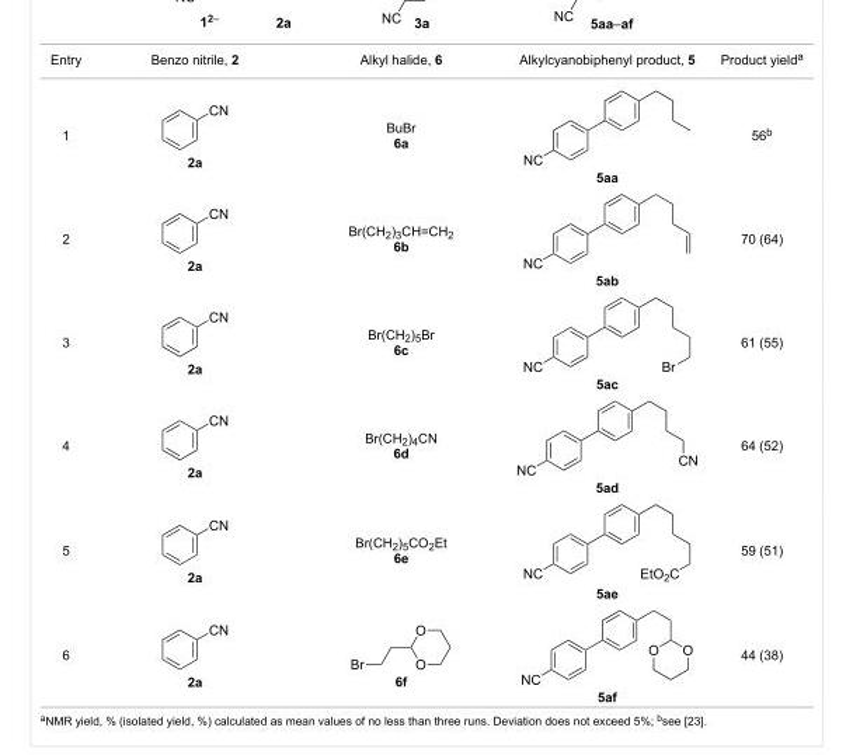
<table><tbody><tr><td>Entry</td><td>Benzo nitrile, 2</td><td>Alkyl halide, 6</td><td>Alkylcyanobiphenyl product, 5</td><td>Product yield<sup>a</sup></td></tr><tr><td>1</td><td>2a</td><td>BuBr 6a</td><td>5aa</td><td>56<sup>b</sup></td></tr><tr><td>2</td><td>2a</td><td>Br(CH<sub>2</sub>)<sub>3</sub>CH=CH<sub>2</sub> 6b</td><td>5ab</td><td>70 (64)</td></tr><tr><td>3</td><td>2a</td><td>Br(CH<sub>2</sub>)<sub>5</sub>Br 6c</td><td>5ac</td><td>61 (55)</td></tr><tr><td>4</td><td>2a</td><td>Br(CH<sub>2</sub>)<sub>4</sub>CN 6d</td><td>5ad</td><td>64 (52)</td></tr><tr><td>5</td><td>2a</td><td>Br(CH<sub>2</sub>)<sub>5</sub>CO<sub>2</sub>Et 6e</td><td>5ae</td><td>59 (51)</td></tr><tr><td>6</td><td>2a</td><td>6f</td><td>5af</td><td>44 (38)</td></tr></tbody></table>